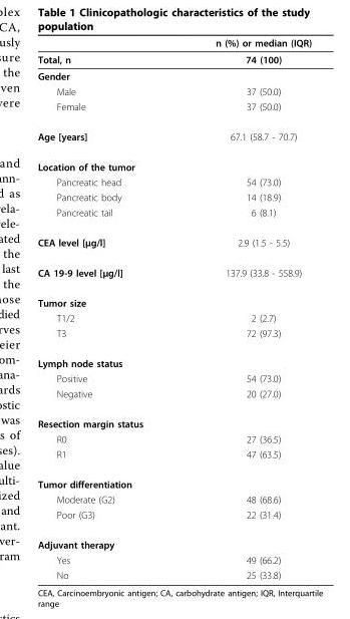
<table><thead><tr><td></td><td>n (%) or median (IQR)</td></tr></thead><tbody><tr><td>Total, n</td><td>74 (100)</td></tr><tr><td colspan="2">Gender</td></tr><tr><td>Male</td><td>37 (50.0)</td></tr><tr><td>Female</td><td>37 (50.0)</td></tr><tr><td>Age [years]</td><td>67.1 (58.7 - 70.7)</td></tr><tr><td colspan="2">Location of the tumor</td></tr><tr><td>Pancreatic head</td><td>54 (73.0)</td></tr><tr><td>Pancreatic body</td><td>14 (18.9)</td></tr><tr><td>Pancreatic tail</td><td>6 (8.1)</td></tr><tr><td>CEA level [μg/l]</td><td>2.9 (1.5 - 5.5)</td></tr><tr><td>CA 19-9 level [μg/l]</td><td>137.9 (33.8 - 558.9)</td></tr><tr><td colspan="2">Tumor size</td></tr><tr><td>T1/2</td><td>2 (2.7)</td></tr><tr><td>T3</td><td>72 (97.3)</td></tr><tr><td colspan="2">Lymph node status</td></tr><tr><td>Positive</td><td>54 (73.0)</td></tr><tr><td>Negative</td><td>20 (27.0)</td></tr><tr><td colspan="2">Resection margin status</td></tr><tr><td>R0</td><td>27 (36.5)</td></tr><tr><td>R1</td><td>47 (63.5)</td></tr><tr><td colspan="2">Tumor differentiation</td></tr><tr><td>Moderate (G2)</td><td>48 (68.6)</td></tr><tr><td>Poor (G3)</td><td>22 (31.4)</td></tr><tr><td colspan="2">Adjuvant therapy</td></tr><tr><td>Yes</td><td>49 (66.2)</td></tr><tr><td>No</td><td>25 (33.8)</td></tr></tbody></table>